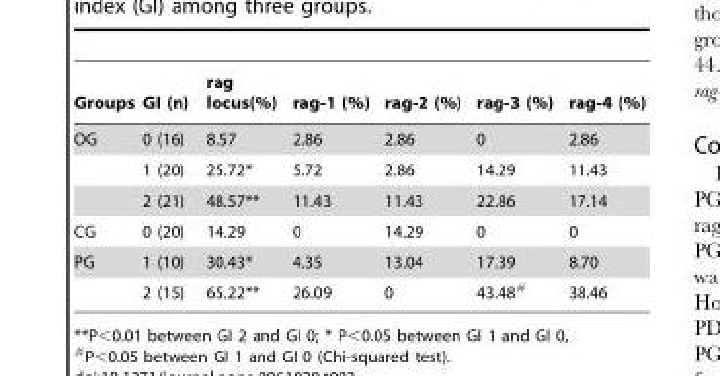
<table><thead><tr><td>Groups</td><td>GI (n)</td><td>rag locus(%)</td><td>rag-1 (%)</td><td>rag-2 (%)</td><td>rag-3 (%)</td><td>rag-4 (%)</td></tr></thead><tbody><tr><td rowspan="3">OG</td><td>0 (16)</td><td>8.57</td><td>2.86</td><td>2.86</td><td>0</td><td>2.86</td></tr><tr><td>1 (20)</td><td>25.72*</td><td>5.72</td><td>2.86</td><td>14.29</td><td>11.43</td></tr><tr><td>2 (21)</td><td>48.57**</td><td>11.43</td><td>11.43</td><td>22.86</td><td>17.14</td></tr><tr><td>CG</td><td>0 (20)</td><td>14.29</td><td>0</td><td>14.29</td><td>0</td><td>0</td></tr><tr><td rowspan="2">PG</td><td>1 (10)</td><td>30.43*</td><td>4.35</td><td>13.04</td><td>17.39</td><td>8.70</td></tr><tr><td>2 (15)</td><td>65.22**</td><td>26.09</td><td>0</td><td>43.48#</td><td>38.46</td></tr></tbody></table>